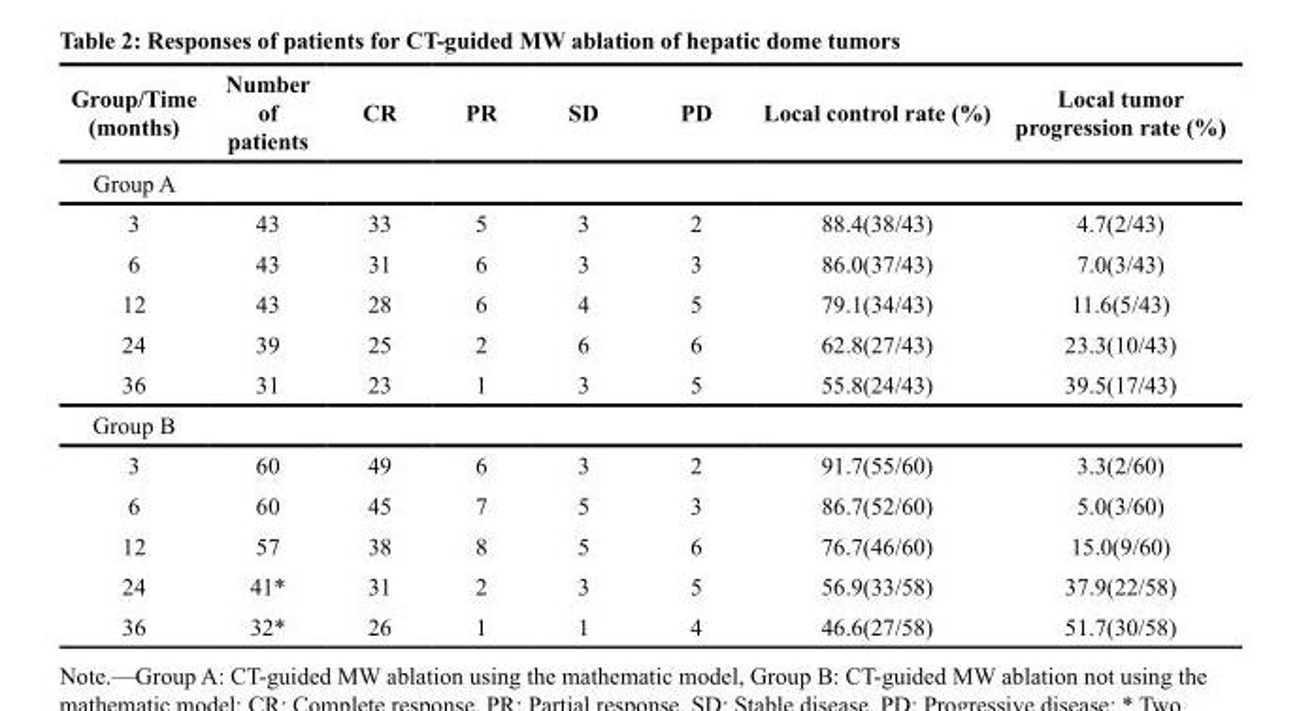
<table><thead><tr><td>Group/Time (months)</td><td>Number of patients</td><td>CR</td><td>PR</td><td>SD</td><td>PD</td><td>Local control rate (%)</td><td>Local tumor progression rate (%)</td></tr></thead><tbody><tr><td colspan="8">Group A</td></tr><tr><td>3</td><td>43</td><td>33</td><td>5</td><td>3</td><td>2</td><td>88.4(38/43)</td><td>4.7(2/43)</td></tr><tr><td>6</td><td>43</td><td>31</td><td>6</td><td>3</td><td>3</td><td>86.0(37/43)</td><td>7.0(3/43)</td></tr><tr><td>12</td><td>43</td><td>28</td><td>6</td><td>4</td><td>5</td><td>79.1(34/43)</td><td>11.6(5/43)</td></tr><tr><td>24</td><td>39</td><td>25</td><td>2</td><td>6</td><td>6</td><td>62.8(27/43)</td><td>23.3(10/43)</td></tr><tr><td>36</td><td>31</td><td>23</td><td>1</td><td>3</td><td>5</td><td>55.8(24/43)</td><td>39.5(17/43)</td></tr><tr><td colspan="8">Group B</td></tr><tr><td>3</td><td>60</td><td>49</td><td>6</td><td>3</td><td>2</td><td>91.7(55/60)</td><td>3.3(2/60)</td></tr><tr><td>6</td><td>60</td><td>45</td><td>7</td><td>5</td><td>3</td><td>86.7(52/60)</td><td>5.0(3/60)</td></tr><tr><td>12</td><td>57</td><td>38</td><td>8</td><td>5</td><td>6</td><td>76.7(46/60)</td><td>15.0(9/60)</td></tr><tr><td>24</td><td>41*</td><td>31</td><td>2</td><td>3</td><td>5</td><td>56.9(33/58)</td><td>37.9(22/58)</td></tr><tr><td>36</td><td>32*</td><td>26</td><td>1</td><td>1</td><td>4</td><td>46.6(27/58)</td><td>51.7(30/58)</td></tr></tbody></table>